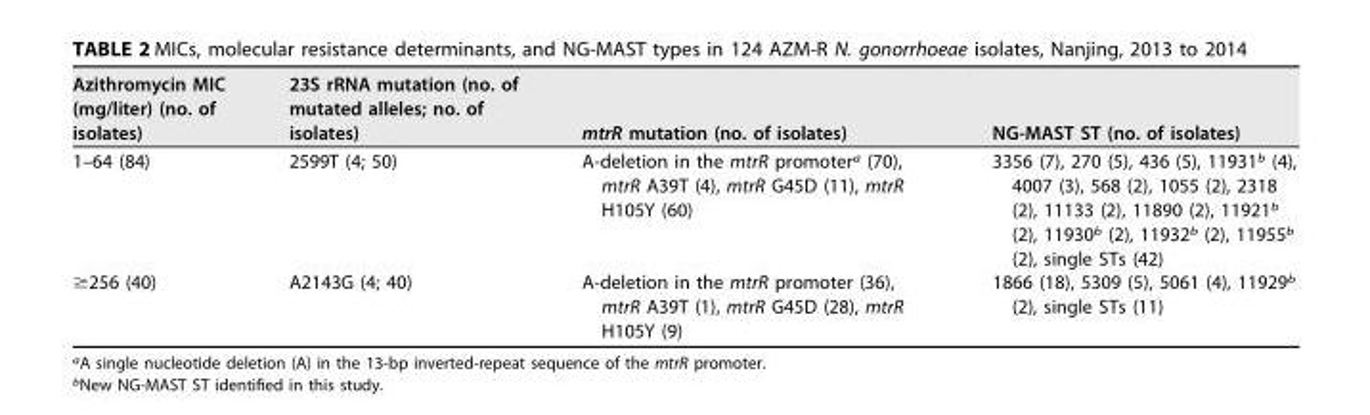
<table><thead><tr><td>Azithromycin MIC (mg/liter) (no. of isolates)</td><td>23S rRNA mutation (no. of mutated alleles; no. of isolates)</td><td>mtrR mutation (no. of isolates)</td><td>NG-MAST ST (no. of isolates)</td></tr></thead><tbody><tr><td>1–64 (84)</td><td>2599T (4; 50)</td><td>A-deletion in the mtrR promoter<sup>a</sup> (70), mtrR A39T (4), mtrR G45D (11), mtrR H105Y (60)</td><td>3356 (7), 270 (5), 436 (5), 11931<sup>b</sup> (4), 4007 (3), 568 (2), 1055 (2), 2318 (2), 11133 (2), 11890 (2), 11921<sup>b</sup> (2), 11930<sup>b</sup> (2), 11932<sup>b</sup> (2), 11955<sup>b</sup> (2), single STs (42)</td></tr><tr><td>≥256 (40)</td><td>A2143G (4; 40)</td><td>A-deletion in the mtrR promoter (36), mtrR A39T (1), mtrR G45D (28), mtrR H105Y (9)</td><td>1866 (18), 5309 (5), 5061 (4), 11929<sup>b</sup> (2), single STs (11)</td></tr></tbody></table>